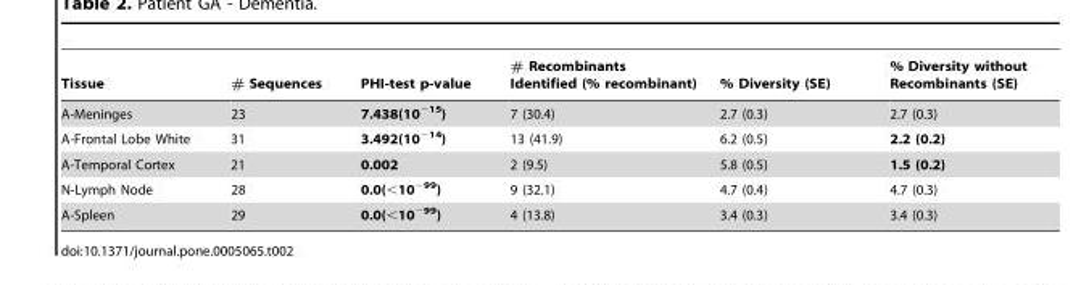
<table><thead><tr><td>Tissue</td><td># Sequences</td><td>PHI-test p-value</td><td># Recombinants Identified (% recombinant)</td><td>% Diversity (SE)</td><td>% Diversity without Recombinants (SE)</td></tr></thead><tbody><tr><td>A-Meninges</td><td>23</td><td>7.438(10<sup>−15</sup>)</td><td>7 (30.4)</td><td>2.7 (0.3)</td><td>2.7 (0.3)</td></tr><tr><td>A-Frontal Lobe White</td><td>31</td><td>3.492(10<sup>−14</sup>)</td><td>13 (41.9)</td><td>6.2 (0.5)</td><td>2.2 (0.2)</td></tr><tr><td>A-Temporal Cortex</td><td>21</td><td>0.002</td><td>2 (9.5)</td><td>5.8 (0.5)</td><td>1.5 (0.2)</td></tr><tr><td>N-Lymph Node</td><td>28</td><td>0.0(&lt;10<sup>−99</sup>)</td><td>9 (32.1)</td><td>4.7 (0.4)</td><td>4.7 (0.3)</td></tr><tr><td>A-Spleen</td><td>29</td><td>0.0(&lt;10<sup>−99</sup>)</td><td>4 (13.8)</td><td>3.4 (0.3)</td><td>3.4 (0.3)</td></tr></tbody></table>